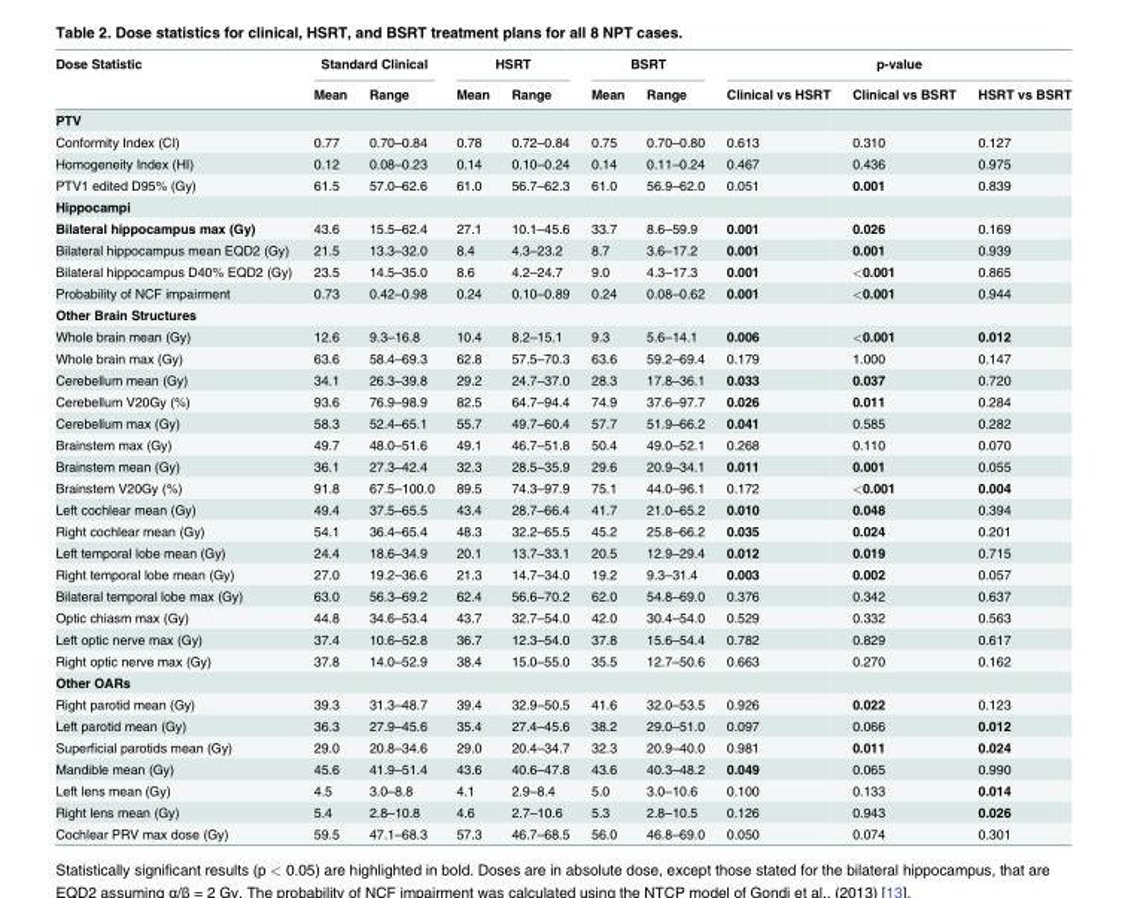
<table><thead><tr><td rowspan="2">Dose Statistic</td><td colspan="2">Standard Clinical</td><td colspan="2">HSRT</td><td colspan="2">BSRT</td><td colspan="3">p-value</td></tr><tr><td>Mean</td><td>Range</td><td>Mean</td><td>Range</td><td>Mean</td><td>Range</td><td>Clinical vs HSRT</td><td>Clinical vs BSRT</td><td>HSRT vs BSRT</td></tr></thead><tbody><tr><td colspan="10">PTV</td></tr><tr><td>Conformity Index (CI)</td><td>0.77</td><td>0.70–0.84</td><td>0.78</td><td>0.72–0.84</td><td>0.75</td><td>0.70–0.80</td><td>0.613</td><td>0.310</td><td>0.127</td></tr><tr><td>Homogeneity Index (HI)</td><td>0.12</td><td>0.08–0.23</td><td>0.14</td><td>0.10–0.24</td><td>0.14</td><td>0.11–0.24</td><td>0.467</td><td>0.436</td><td>0.975</td></tr><tr><td>PTV1 edited D95% (Gy)</td><td>61.5</td><td>57.0–62.6</td><td>61.0</td><td>56.7–62.3</td><td>61.0</td><td>56.9–62.0</td><td>0.051</td><td>0.001</td><td>0.839</td></tr><tr><td colspan="10">Hippocampi</td></tr><tr><td>Bilateral hippocampus max (Gy)</td><td>43.6</td><td>15.5–62.4</td><td>27.1</td><td>10.1–45.6</td><td>33.7</td><td>8.6–59.9</td><td>0.001</td><td>0.026</td><td>0.169</td></tr><tr><td>Bilateral hippocampus mean EQD2 (Gy)</td><td>21.5</td><td>13.3–32.0</td><td>8.4</td><td>4.3–23.2</td><td>8.7</td><td>3.6–17.2</td><td>0.001</td><td>0.001</td><td>0.939</td></tr><tr><td>Bilateral hippocampus D40% EQD2 (Gy)</td><td>23.5</td><td>14.5–35.0</td><td>8.6</td><td>4.2–24.7</td><td>9.0</td><td>4.3–17.3</td><td>0.001</td><td>&lt;0.001</td><td>0.865</td></tr><tr><td>Probability of NCF impairment</td><td>0.73</td><td>0.42–0.98</td><td>0.24</td><td>0.10–0.89</td><td>0.24</td><td>0.08–0.62</td><td>0.001</td><td>&lt;0.001</td><td>0.944</td></tr><tr><td colspan="10">Other Brain Structures</td></tr><tr><td>Whole brain mean (Gy)</td><td>12.6</td><td>9.3–16.8</td><td>10.4</td><td>8.2–15.1</td><td>9.3</td><td>5.6–14.1</td><td>0.006</td><td>&lt;0.001</td><td>0.012</td></tr><tr><td>Whole brain max (Gy)</td><td>63.6</td><td>58.4–69.3</td><td>62.8</td><td>57.5–70.3</td><td>63.6</td><td>59.2–69.4</td><td>0.179</td><td>1.000</td><td>0.147</td></tr><tr><td>Cerebellum mean (Gy)</td><td>34.1</td><td>26.3–39.8</td><td>29.2</td><td>24.7–37.0</td><td>28.3</td><td>17.8–36.1</td><td>0.033</td><td>0.037</td><td>0.720</td></tr><tr><td>Cerebellum V20Gy (%)</td><td>93.6</td><td>76.9–98.9</td><td>82.5</td><td>64.7–94.4</td><td>74.9</td><td>37.6–97.7</td><td>0.026</td><td>0.011</td><td>0.284</td></tr><tr><td>Cerebellum max (Gy)</td><td>58.3</td><td>52.4–65.1</td><td>55.7</td><td>49.7–60.4</td><td>57.7</td><td>51.9–66.2</td><td>0.041</td><td>0.585</td><td>0.282</td></tr><tr><td>Brainstem max (Gy)</td><td>49.7</td><td>48.0–51.6</td><td>49.1</td><td>46.7–51.8</td><td>50.4</td><td>49.0–52.1</td><td>0.268</td><td>0.110</td><td>0.070</td></tr><tr><td>Brainstem mean (Gy)</td><td>36.1</td><td>27.3–42.4</td><td>32.3</td><td>28.5–35.9</td><td>29.6</td><td>20.9–34.1</td><td>0.011</td><td>0.001</td><td>0.055</td></tr><tr><td>Brainstem V20Gy (%)</td><td>91.8</td><td>67.5–100.0</td><td>89.5</td><td>74.3–97.9</td><td>75.1</td><td>44.0–96.1</td><td>0.172</td><td>&lt;0.001</td><td>0.004</td></tr><tr><td>Left cochlear mean (Gy)</td><td>49.4</td><td>37.5–65.5</td><td>43.4</td><td>28.7–66.4</td><td>41.7</td><td>21.0–65.2</td><td>0.010</td><td>0.048</td><td>0.394</td></tr><tr><td>Right cochlear mean (Gy)</td><td>54.1</td><td>36.4–65.4</td><td>48.3</td><td>32.2–65.5</td><td>45.2</td><td>25.8–66.2</td><td>0.035</td><td>0.024</td><td>0.201</td></tr><tr><td>Left temporal lobe mean (Gy)</td><td>24.4</td><td>18.6–34.9</td><td>20.1</td><td>13.7–33.1</td><td>20.5</td><td>12.9–29.4</td><td>0.012</td><td>0.019</td><td>0.715</td></tr><tr><td>Right temporal lobe mean (Gy)</td><td>27.0</td><td>19.2–36.6</td><td>21.3</td><td>14.7–34.0</td><td>19.2</td><td>9.3–31.4</td><td>0.003</td><td>0.002</td><td>0.057</td></tr><tr><td>Bilateral temporal lobe max (Gy)</td><td>63.0</td><td>56.3–69.2</td><td>62.4</td><td>56.6–70.2</td><td>62.0</td><td>54.8–69.0</td><td>0.376</td><td>0.342</td><td>0.637</td></tr><tr><td>Optic chiasm max (Gy)</td><td>44.8</td><td>34.6–53.4</td><td>43.7</td><td>32.7–54.0</td><td>42.0</td><td>30.4–54.0</td><td>0.529</td><td>0.332</td><td>0.563</td></tr><tr><td>Left optic nerve max (Gy)</td><td>37.4</td><td>10.6–52.8</td><td>36.7</td><td>12.3–54.0</td><td>37.8</td><td>15.6–54.4</td><td>0.782</td><td>0.829</td><td>0.617</td></tr><tr><td>Right optic nerve max (Gy)</td><td>37.8</td><td>14.0–52.9</td><td>38.4</td><td>15.0–55.0</td><td>35.5</td><td>12.7–50.6</td><td>0.663</td><td>0.270</td><td>0.162</td></tr><tr><td colspan="10">Other OARs</td></tr><tr><td>Right parotid mean (Gy)</td><td>39.3</td><td>31.3–48.7</td><td>39.4</td><td>32.9–50.5</td><td>41.6</td><td>32.0–53.5</td><td>0.926</td><td>0.022</td><td>0.123</td></tr><tr><td>Left parotid mean (Gy)</td><td>36.3</td><td>27.9–45.6</td><td>35.4</td><td>27.4–45.6</td><td>38.2</td><td>29.0–51.0</td><td>0.097</td><td>0.066</td><td>0.012</td></tr><tr><td>Superficial parotids mean (Gy)</td><td>29.0</td><td>20.8–34.6</td><td>29.0</td><td>20.4–34.7</td><td>32.3</td><td>20.9–40.0</td><td>0.981</td><td>0.011</td><td>0.024</td></tr><tr><td>Mandible mean (Gy)</td><td>45.6</td><td>41.9–51.4</td><td>43.6</td><td>40.6–47.8</td><td>43.6</td><td>40.3–48.2</td><td>0.049</td><td>0.065</td><td>0.990</td></tr><tr><td>Left lens mean (Gy)</td><td>4.5</td><td>3.0–8.8</td><td>4.1</td><td>2.9–8.4</td><td>5.0</td><td>3.0–10.6</td><td>0.100</td><td>0.133</td><td>0.014</td></tr><tr><td>Right lens mean (Gy)</td><td>5.4</td><td>2.8–10.8</td><td>4.6</td><td>2.7–10.6</td><td>5.3</td><td>2.8–10.5</td><td>0.126</td><td>0.943</td><td>0.026</td></tr><tr><td>Cochlear PRV max dose (Gy)</td><td>59.5</td><td>47.1–68.3</td><td>57.3</td><td>46.7–68.5</td><td>56.0</td><td>46.8–69.0</td><td>0.050</td><td>0.074</td><td>0.301</td></tr></tbody></table>